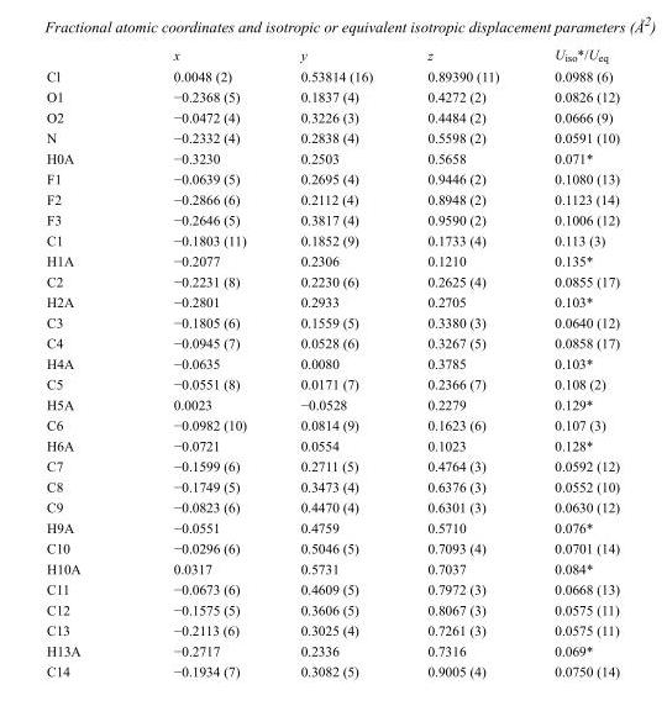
<table><thead><tr><td></td><td>x</td><td>y</td><td>z</td><td>U<sub>iso</sub>*/U<sub>eq</sub></td></tr></thead><tbody><tr><td>Cl</td><td>0.0048 (2)</td><td>0.53814 (16)</td><td>0.89390 (11)</td><td>0.0988 (6)</td></tr><tr><td>O1</td><td>−0.2368 (5)</td><td>0.1837 (4)</td><td>0.4272 (2)</td><td>0.0826 (12)</td></tr><tr><td>O2</td><td>−0.0472 (4)</td><td>0.3226 (3)</td><td>0.4484 (2)</td><td>0.0666 (9)</td></tr><tr><td>N</td><td>−0.2332 (4)</td><td>0.2838 (4)</td><td>0.5598 (2)</td><td>0.0591 (10)</td></tr><tr><td>H0A</td><td>−0.3230</td><td>0.2503</td><td>0.5658</td><td>0.071*</td></tr><tr><td>F1</td><td>−0.0639 (5)</td><td>0.2695 (4)</td><td>0.9446 (2)</td><td>0.1080 (13)</td></tr><tr><td>F2</td><td>−0.2866 (6)</td><td>0.2112 (4)</td><td>0.8948 (2)</td><td>0.1123 (14)</td></tr><tr><td>F3</td><td>−0.2646 (5)</td><td>0.3817 (4)</td><td>0.9590 (2)</td><td>0.1006 (12)</td></tr><tr><td>C1</td><td>−0.1803 (11)</td><td>0.1852 (9)</td><td>0.1733 (4)</td><td>0.113 (3)</td></tr><tr><td>H1A</td><td>−0.2077</td><td>0.2306</td><td>0.1210</td><td>0.135*</td></tr><tr><td>C2</td><td>−0.2231 (8)</td><td>0.2230 (6)</td><td>0.2625 (4)</td><td>0.0855 (17)</td></tr><tr><td>H2A</td><td>−0.2801</td><td>0.2933</td><td>0.2705</td><td>0.103*</td></tr><tr><td>C3</td><td>−0.1805 (6)</td><td>0.1559 (5)</td><td>0.3380 (3)</td><td>0.0640 (12)</td></tr><tr><td>C4</td><td>−0.0945 (7)</td><td>0.0528 (6)</td><td>0.3267 (5)</td><td>0.0858 (17)</td></tr><tr><td>H4A</td><td>−0.0635</td><td>0.0080</td><td>0.3785</td><td>0.103*</td></tr><tr><td>C5</td><td>−0.0551 (8)</td><td>0.0171 (7)</td><td>0.2366 (7)</td><td>0.108 (2)</td></tr><tr><td>H5A</td><td>0.0023</td><td>−0.0528</td><td>0.2279</td><td>0.129*</td></tr><tr><td>C6</td><td>−0.0982 (10)</td><td>0.0814 (9)</td><td>0.1623 (6)</td><td>0.107 (3)</td></tr><tr><td>H6A</td><td>−0.0721</td><td>0.0554</td><td>0.1023</td><td>0.128*</td></tr><tr><td>C7</td><td>−0.1599 (6)</td><td>0.2711 (5)</td><td>0.4764 (3)</td><td>0.0592 (12)</td></tr><tr><td>C8</td><td>−0.1749 (5)</td><td>0.3473 (4)</td><td>0.6376 (3)</td><td>0.0552 (10)</td></tr><tr><td>C9</td><td>−0.0823 (6)</td><td>0.4470 (4)</td><td>0.6301 (3)</td><td>0.0630 (12)</td></tr><tr><td>H9A</td><td>−0.0551</td><td>0.4759</td><td>0.5710</td><td>0.076*</td></tr><tr><td>C10</td><td>−0.0296 (6)</td><td>0.5046 (5)</td><td>0.7093 (4)</td><td>0.0701 (14)</td></tr><tr><td>H10A</td><td>0.0317</td><td>0.5731</td><td>0.7037</td><td>0.084*</td></tr><tr><td>C11</td><td>−0.0673 (6)</td><td>0.4609 (5)</td><td>0.7972 (3)</td><td>0.0668 (13)</td></tr><tr><td>C12</td><td>−0.1575 (5)</td><td>0.3606 (5)</td><td>0.8067 (3)</td><td>0.0575 (11)</td></tr><tr><td>C13</td><td>−0.2113 (6)</td><td>0.3025 (4)</td><td>0.7261 (3)</td><td>0.0575 (11)</td></tr><tr><td>H13A</td><td>−0.2717</td><td>0.2336</td><td>0.7316</td><td>0.069*</td></tr><tr><td>C14</td><td>−0.1934 (7)</td><td>0.3082 (5)</td><td>0.9005 (4)</td><td>0.0750 (14)</td></tr></tbody></table>